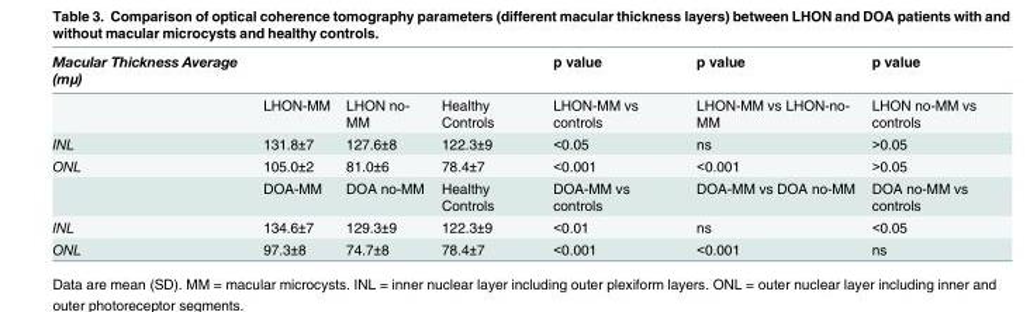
<table><thead><tr><td>Macular Thickness Average (mμ)</td><td></td><td></td><td></td><td>p value</td><td>p value</td><td>p value</td></tr></thead><tbody><tr><td></td><td>LHON-MM</td><td>LHON no- MM</td><td>Healthy Controls</td><td>LHON-MM vs controls</td><td>LHON-MM vs LHON-no- MM</td><td>LHON no-MM vs controls</td></tr><tr><td>INL</td><td>131.8±7</td><td>127.6±8</td><td>122.3±9</td><td>&lt;0.05</td><td>ns</td><td>&gt;0.05</td></tr><tr><td rowspan="2">ONL</td><td>105.0±2</td><td>81.0±6</td><td>78.4±7</td><td>&lt;0.001</td><td>&lt;0.001</td><td>&gt;0.05</td></tr><tr><td>DOA-MM</td><td>DOA no-MM</td><td>Healthy Controls</td><td>DOA-MM vs controls</td><td>DOA-MM vs DOA no-MM</td><td>DOA no-MM vs controls</td></tr><tr><td>INL</td><td>134.6±7</td><td>129.3±9</td><td>122.3±9</td><td>&lt;0.01</td><td>ns</td><td>&lt;0.05</td></tr><tr><td>ONL</td><td>97.3±8</td><td>74.7±8</td><td>78.4±7</td><td>&lt;0.001</td><td>&lt;0.001</td><td>ns</td></tr></tbody></table>